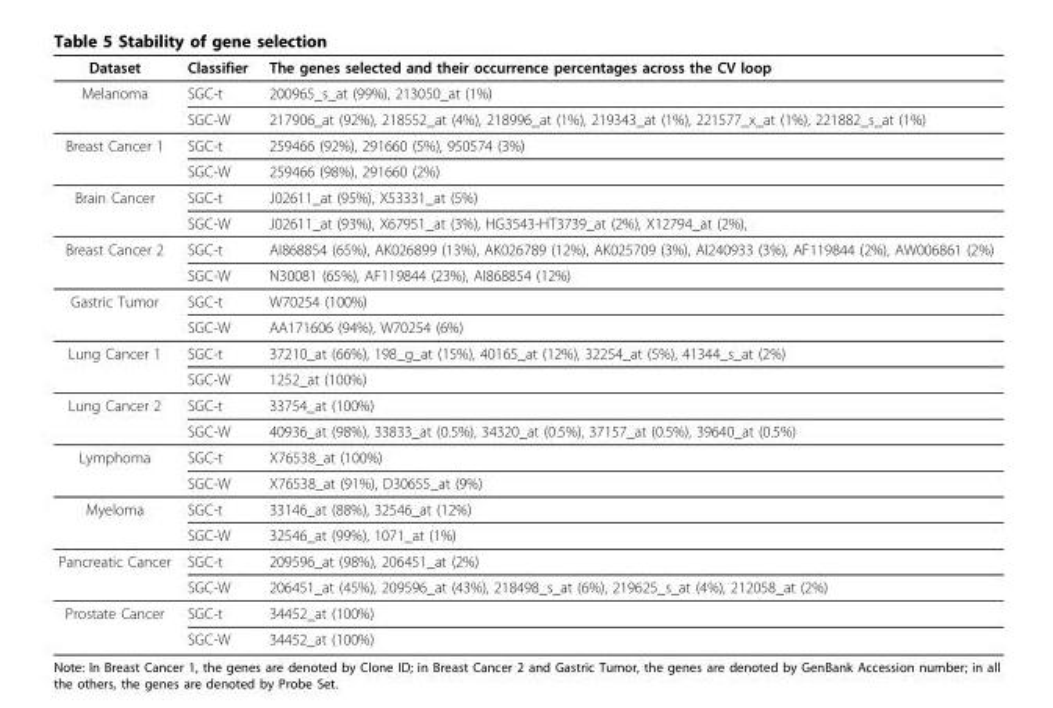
<table><thead><tr><td>Dataset</td><td>Classifier</td><td>The genes selected and their occurrence percentages across the CV loop</td></tr></thead><tbody><tr><td rowspan="2">Melanoma</td><td>SGC-t</td><td>200965_s_at (99%), 213050_at (1%)</td></tr><tr><td>SGC-W</td><td>217906_at (92%), 218552_at (4%), 218996_at (1%), 219343_at (1%), 221577_x_at (1%), 221882_s_at (1%)</td></tr><tr><td rowspan="2">Breast Cancer 1</td><td>SGC-t</td><td>259466 (92%), 291660 (5%), 950574 (3%)</td></tr><tr><td>SGC-W</td><td>259466 (98%), 291660 (2%)</td></tr><tr><td rowspan="2">Brain Cancer</td><td>SGC-t</td><td>J02611_at (95%), X53331_at (5%)</td></tr><tr><td>SGC-W</td><td>J02611_at (93%), X67951_at (3%), HG3543-HT3739_at (2%), X12794_at (2%),</td></tr><tr><td rowspan="2">Breast Cancer 2</td><td>SGC-t</td><td>AI868854 (65%), AK026899 (13%), AK026789 (12%), AK025709 (3%), AI240933 (3%), AF119844 (2%), AW006861 (2%)</td></tr><tr><td>SGC-W</td><td>N30081 (65%), AF119844 (23%), AI868854 (12%)</td></tr><tr><td rowspan="2">Gastric Tumor</td><td>SGC-t</td><td>W70254 (100%)</td></tr><tr><td>SGC-W</td><td>AA171606 (94%), W70254 (6%)</td></tr><tr><td rowspan="2">Lung Cancer 1</td><td>SGC-t</td><td>37210_at (66%), 198_g_at (15%), 40165_at (12%), 32254_at (5%), 41344_s_at (2%)</td></tr><tr><td>SGC-W</td><td>1252_at (100%)</td></tr><tr><td rowspan="2">Lung Cancer 2</td><td>SGC-t</td><td>33754_at (100%)</td></tr><tr><td>SGC-W</td><td>40936_at (98%), 33833_at (0.5%), 34320_at (0.5%), 37157_at (0.5%), 39640_at (0.5%)</td></tr><tr><td rowspan="2">Lymphoma</td><td>SGC-t</td><td>X76538_at (100%)</td></tr><tr><td>SGC-W</td><td>X76538_at (91%), D30655_at (9%)</td></tr><tr><td rowspan="2">Myeloma</td><td>SGC-t</td><td>33146_at (88%), 32546_at (12%)</td></tr><tr><td>SGC-W</td><td>32546_at (99%), 1071_at (1%)</td></tr><tr><td rowspan="2">Pancreatic Cancer</td><td>SGC-t</td><td>209596_at (98%), 206451_at (2%)</td></tr><tr><td>SGC-W</td><td>206451_at (45%), 209596_at (43%), 218498_s_at (6%), 219625_s_at (4%), 212058_at (2%)</td></tr><tr><td rowspan="2">Prostate Cancer</td><td>SGC-t</td><td>34452_at (100%)</td></tr><tr><td>SGC-W</td><td>34452_at (100%)</td></tr></tbody></table>